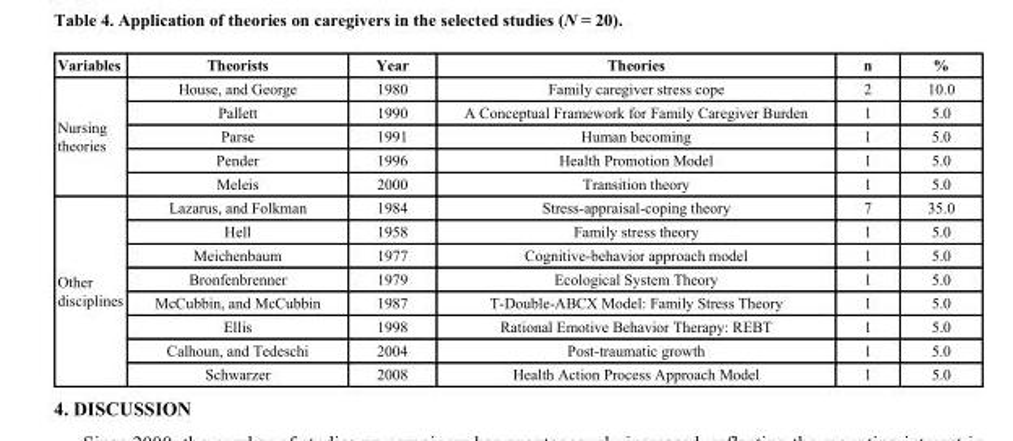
<table><thead><tr><td>Variables</td><td>Theorists</td><td>Year</td><td>Theories</td><td>n</td><td>%</td></tr></thead><tbody><tr><td rowspan="5">Nursing theories</td><td>House, and George</td><td>1980</td><td>Family caregiver stress cope</td><td>2</td><td>10.0</td></tr><tr><td>Pallett</td><td>1990</td><td>A Conceptual Framework for Family Caregiver Burden</td><td>1</td><td>5.0</td></tr><tr><td>Parse</td><td>1991</td><td>Human becoming</td><td>1</td><td>5.0</td></tr><tr><td>Pender</td><td>1996</td><td>Health Promotion Model</td><td>1</td><td>5.0</td></tr><tr><td>Meleis</td><td>2000</td><td>Transition theory</td><td>1</td><td>5.0</td></tr><tr><td rowspan="8">Other disciplines</td><td>Lazarus, and Folkman</td><td>1984</td><td>Stress-appraisal-coping theory</td><td>7</td><td>35.0</td></tr><tr><td>Hell</td><td>1958</td><td>Family stress theory</td><td>1</td><td>5.0</td></tr><tr><td>Meichenbaum</td><td>1977</td><td>Cognitive-behavior approach model</td><td>1</td><td>5.0</td></tr><tr><td>Bronfenbrenner</td><td>1979</td><td>Ecological System Theory</td><td>1</td><td>5.0</td></tr><tr><td>McCubbin, and McCubbin</td><td>1987</td><td>T-Double-ABCX Model: Family Stress Theory</td><td>1</td><td>5.0</td></tr><tr><td>Ellis</td><td>1998</td><td>Rational Emotive Behavior Therapy: REBT</td><td>1</td><td>5.0</td></tr><tr><td>Calhoun, and Tedeschi</td><td>2004</td><td>Post-traumatic growth</td><td>1</td><td>5.0</td></tr><tr><td>Schwarzer</td><td>2008</td><td>Health Action Process Approach Model</td><td>1</td><td>5.0</td></tr></tbody></table>